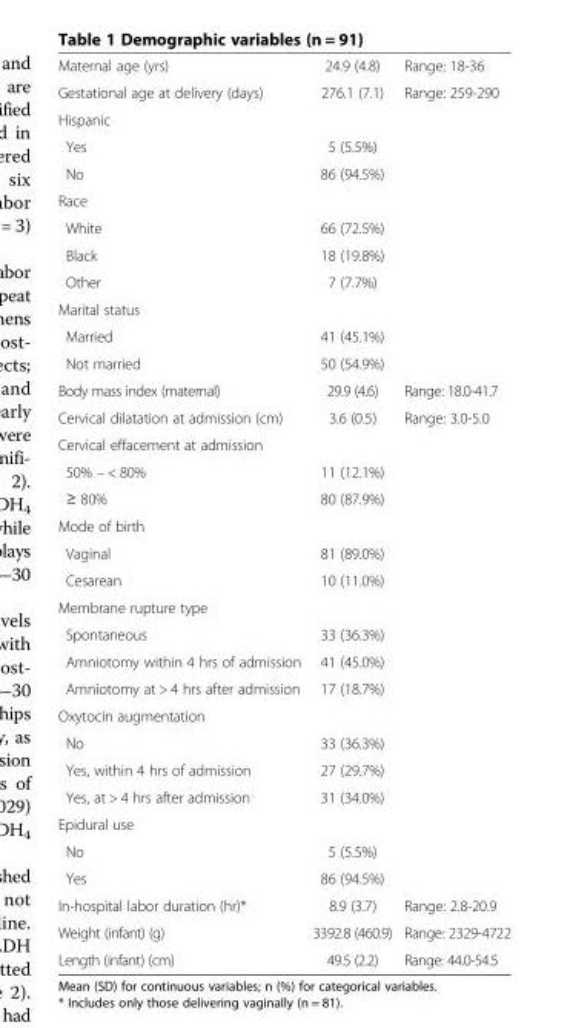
<table><tbody><tr><td>Maternal age (yrs)</td><td>24.9 (4.8)</td><td>Range: 18-36</td></tr><tr><td>Gestational age at delivery (days)</td><td>276.1 (7.1)</td><td>Range: 259-290</td></tr><tr><td colspan="3">Hispanic</td></tr><tr><td>Yes</td><td>5 (5.5%)</td><td></td></tr><tr><td>No</td><td>86 (94.5%)</td><td></td></tr><tr><td colspan="3">Race</td></tr><tr><td>White</td><td>66 (72.5%)</td><td></td></tr><tr><td>Black</td><td>18 (19.8%)</td><td></td></tr><tr><td>Other</td><td>7 (7.7%)</td><td></td></tr><tr><td colspan="3">Marital status</td></tr><tr><td>Married</td><td>41 (45.1%)</td><td></td></tr><tr><td>Not married</td><td>50 (54.9%)</td><td></td></tr><tr><td>Body mass index (maternal)</td><td>29.9 (4.6)</td><td>Range: 18.0-41.7</td></tr><tr><td>Cervical dilatation at admission (cm)</td><td>3.6 (0.5)</td><td>Range: 3.0-5.0</td></tr><tr><td colspan="3">Cervical effacement at admission</td></tr><tr><td>50% – &lt; 80%</td><td>11 (12.1%)</td><td></td></tr><tr><td>≥ 80%</td><td>80 (87.9%)</td><td></td></tr><tr><td colspan="3">Mode of birth</td></tr><tr><td>Vaginal</td><td>81 (89.0%)</td><td></td></tr><tr><td>Cesarean</td><td>10 (11.0%)</td><td></td></tr><tr><td colspan="3">Membrane rupture type</td></tr><tr><td>Spontaneous</td><td>33 (36.3%)</td><td></td></tr><tr><td>Amniotomy within 4 hrs of admission</td><td>41 (45.0%)</td><td></td></tr><tr><td>Amniotomy at &gt; 4 hrs after admission</td><td>17 (18.7%)</td><td></td></tr><tr><td colspan="3">Oxytocin augmentation</td></tr><tr><td>No</td><td>33 (36.3%)</td><td></td></tr><tr><td>Yes, within 4 hrs of admission</td><td>27 (29.7%)</td><td></td></tr><tr><td>Yes, at &gt; 4 hrs after admission</td><td>31 (34.0%)</td><td></td></tr><tr><td colspan="3">Epidural use</td></tr><tr><td>No</td><td>5 (5.5%)</td><td></td></tr><tr><td>Yes</td><td>86 (94.5%)</td><td></td></tr><tr><td>In-hospital labor duration (hr)*</td><td>8.9 (3.7)</td><td>Range: 2.8-20.9</td></tr><tr><td>Weight (infant) (g)</td><td>3392.8 (460.9)</td><td>Range: 2329-4722</td></tr><tr><td>Length (infant) (cm)</td><td>49.5 (2.2)</td><td>Range: 44.0-54.5</td></tr></tbody></table>